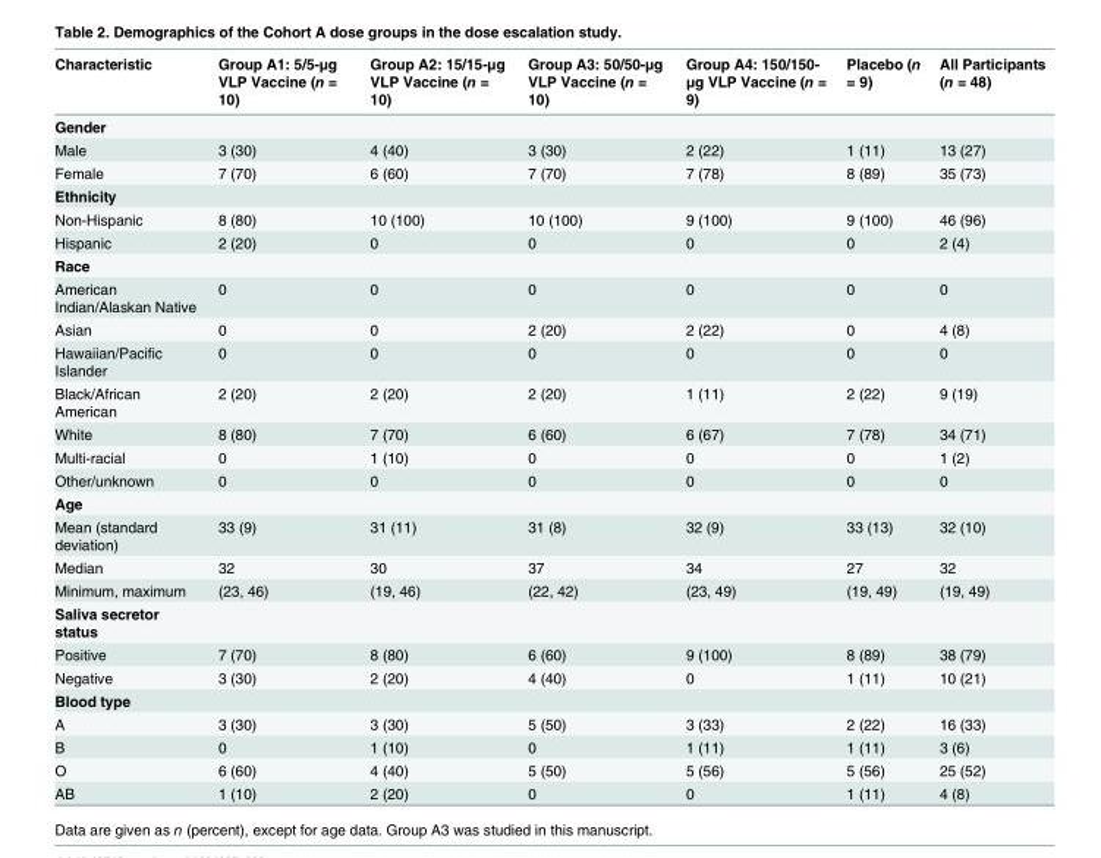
<table><thead><tr><td>Characteristic</td><td>Group A1: 5/5-μg VLP Vaccine (n = 10)</td><td>Group A2: 15/15-μg VLP Vaccine (n = 10)</td><td>Group A3: 50/50-μg VLP Vaccine (n = 10)</td><td>Group A4: 150/150- μg VLP Vaccine (n = 9)</td><td>Placebo (n = 9)</td><td>All Participants (n = 48)</td></tr></thead><tbody><tr><td colspan="7">Gender</td></tr><tr><td>Male</td><td>3 (30)</td><td>4 (40)</td><td>3 (30)</td><td>2 (22)</td><td>1 (11)</td><td>13 (27)</td></tr><tr><td>Female</td><td>7 (70)</td><td>6 (60)</td><td>7 (70)</td><td>7 (78)</td><td>8 (89)</td><td>35 (73)</td></tr><tr><td colspan="7">Ethnicity</td></tr><tr><td>Non-Hispanic</td><td>8 (80)</td><td>10 (100)</td><td>10 (100)</td><td>9 (100)</td><td>9 (100)</td><td>46 (96)</td></tr><tr><td>Hispanic</td><td>2 (20)</td><td>0</td><td>0</td><td>0</td><td>0</td><td>2 (4)</td></tr><tr><td colspan="7">Race</td></tr><tr><td>American Indian/Alaskan Native</td><td>0</td><td>0</td><td>0</td><td>0</td><td>0</td><td>0</td></tr><tr><td>Asian</td><td>0</td><td>0</td><td>2 (20)</td><td>2 (22)</td><td>0</td><td>4 (8)</td></tr><tr><td>Hawaiian/Pacific Islander</td><td>0</td><td>0</td><td>0</td><td>0</td><td>0</td><td>0</td></tr><tr><td>Black/African American</td><td>2 (20)</td><td>2 (20)</td><td>2 (20)</td><td>1 (11)</td><td>2 (22)</td><td>9 (19)</td></tr><tr><td>White</td><td>8 (80)</td><td>7 (70)</td><td>6 (60)</td><td>6 (67)</td><td>7 (78)</td><td>34 (71)</td></tr><tr><td>Multi-racial</td><td>0</td><td>1 (10)</td><td>0</td><td>0</td><td>0</td><td>1 (2)</td></tr><tr><td>Other/unknown</td><td>0</td><td>0</td><td>0</td><td>0</td><td>0</td><td>0</td></tr><tr><td colspan="7">Age</td></tr><tr><td>Mean (standard deviation)</td><td>33 (9)</td><td>31 (11)</td><td>31 (8)</td><td>32 (9)</td><td>33 (13)</td><td>32 (10)</td></tr><tr><td>Median</td><td>32</td><td>30</td><td>37</td><td>34</td><td>27</td><td>32</td></tr><tr><td>Minimum, maximum</td><td>(23, 46)</td><td>(19, 46)</td><td>(22, 42)</td><td>(23, 49)</td><td>(19, 49)</td><td>(19, 49)</td></tr><tr><td colspan="7">Saliva secretor status</td></tr><tr><td>Positive</td><td>7 (70)</td><td>8 (80)</td><td>6 (60)</td><td>9 (100)</td><td>8 (89)</td><td>38 (79)</td></tr><tr><td>Negative</td><td>3 (30)</td><td>2 (20)</td><td>4 (40)</td><td>0</td><td>1 (11)</td><td>10 (21)</td></tr><tr><td colspan="7">Blood type</td></tr><tr><td>A</td><td>3 (30)</td><td>3 (30)</td><td>5 (50)</td><td>3 (33)</td><td>2 (22)</td><td>16 (33)</td></tr><tr><td>B</td><td>0</td><td>1 (10)</td><td>0</td><td>1 (11)</td><td>1 (11)</td><td>3 (6)</td></tr><tr><td>O</td><td>6 (60)</td><td>4 (40)</td><td>5 (50)</td><td>5 (56)</td><td>5 (56)</td><td>25 (52)</td></tr><tr><td>AB</td><td>1 (10)</td><td>2 (20)</td><td>0</td><td>0</td><td>1 (11)</td><td>4 (8)</td></tr></tbody></table>